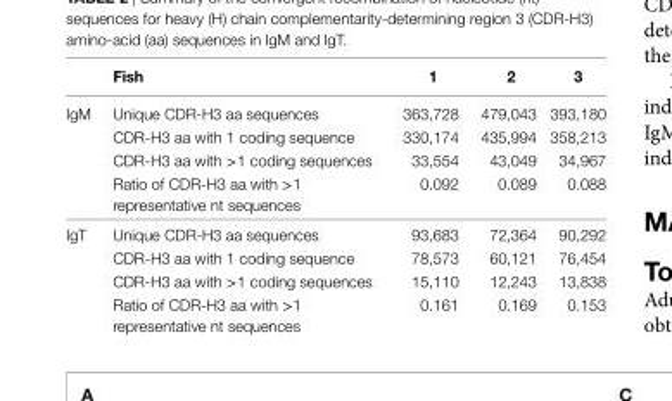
<table><thead><tr><td></td><td>Fish</td><td>1</td><td>2</td><td>3</td></tr></thead><tbody><tr><td rowspan="4">IgM</td><td>Unique CDR-H3 aa sequences</td><td>363,728</td><td>479,043</td><td>393,180</td></tr><tr><td>CDR-H3 aa with 1 coding sequence</td><td>330,174</td><td>435,994</td><td>358,213</td></tr><tr><td>CDR-H3 aa with &gt;1 coding sequences</td><td>33,554</td><td>43,049</td><td>34,967</td></tr><tr><td>Ratio of CDR-H3 aa with &gt;1 representative nt sequences</td><td>0.092</td><td>0.089</td><td>0.088</td></tr><tr><td rowspan="4">IgT</td><td>Unique CDR-H3 aa sequences</td><td>93,683</td><td>72,364</td><td>90,292</td></tr><tr><td>CDR-H3 aa with 1 coding sequence</td><td>78,573</td><td>60,121</td><td>76,454</td></tr><tr><td>CDR-H3 aa with &gt;1 coding sequences</td><td>15,110</td><td>12,243</td><td>13,838</td></tr><tr><td>Ratio of CDR-H3 aa with &gt;1 representative nt sequences</td><td>0.161</td><td>0.169</td><td>0.153</td></tr></tbody></table>